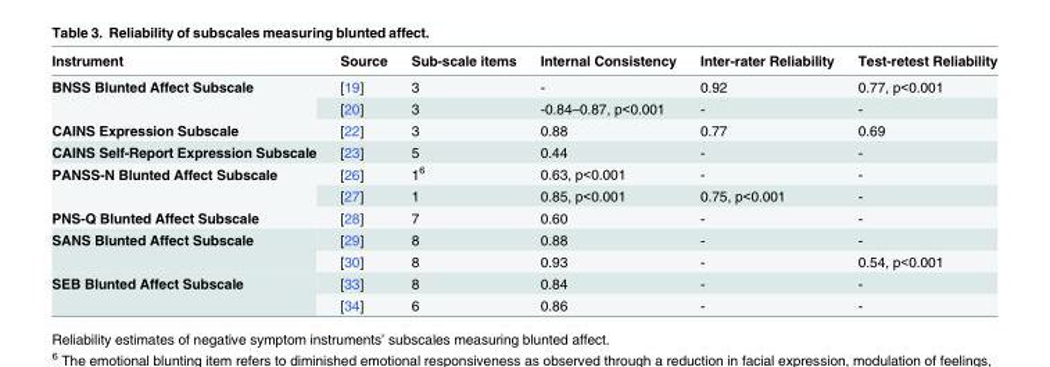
<table><thead><tr><td>Instrument</td><td>Source</td><td>Sub-scale items</td><td>Internal Consistency</td><td>Inter-rater Reliability</td><td>Test-retest Reliability</td></tr></thead><tbody><tr><td rowspan="2">BNSS Blunted Affect Subscale</td><td>[19]</td><td>3</td><td>-</td><td>0.92</td><td>0.77, p&lt;0.001</td></tr><tr><td>[20]</td><td>3</td><td>-0.84–0.87, p&lt;0.001</td><td>-</td><td>-</td></tr><tr><td>CAINS Expression Subscale</td><td>[22]</td><td>3</td><td>0.88</td><td>0.77</td><td>0.69</td></tr><tr><td>CAINS Self-Report Expression Subscale</td><td>[23]</td><td>5</td><td>0.44</td><td>-</td><td>-</td></tr><tr><td rowspan="2">PANSS-N Blunted Affect Subscale</td><td>[26]</td><td>1<sup>6</sup></td><td>0.63, p&lt;0.001</td><td>-</td><td>-</td></tr><tr><td>[27]</td><td>1</td><td>0.85, p&lt;0.001</td><td>0.75, p&lt;0.001</td><td>-</td></tr><tr><td>PNS-Q Blunted Affect Subscale</td><td>[28]</td><td>7</td><td>0.60</td><td>-</td><td>-</td></tr><tr><td rowspan="2">SANS Blunted Affect Subscale</td><td>[29]</td><td>8</td><td>0.88</td><td>-</td><td>-</td></tr><tr><td>[30]</td><td>8</td><td>0.93</td><td>-</td><td>0.54, p&lt;0.001</td></tr><tr><td rowspan="2">SEB Blunted Affect Subscale</td><td>[33]</td><td>8</td><td>0.84</td><td>-</td><td>-</td></tr><tr><td>[34]</td><td>6</td><td>0.86</td><td>-</td><td>-</td></tr></tbody></table>